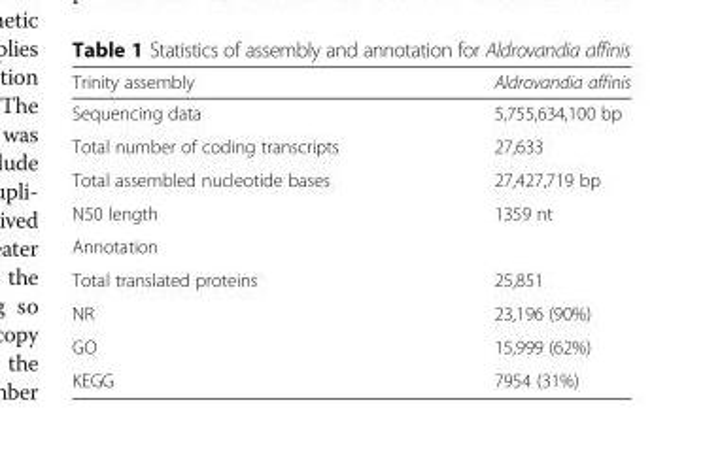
<table><thead><tr><td>Trinity assembly</td><td>Aldrovandia affinis</td></tr></thead><tbody><tr><td>Sequencing data</td><td>5,755,634,100 bp</td></tr><tr><td>Total number of coding transcripts</td><td>27,633</td></tr><tr><td>Total assembled nucleotide bases</td><td>27,427,719 bp</td></tr><tr><td>N50 length</td><td>1359 nt</td></tr><tr><td colspan="2">Annotation</td></tr><tr><td>Total translated proteins</td><td>25,851</td></tr><tr><td>NR</td><td>23,196 (90%)</td></tr><tr><td>GO</td><td>15,999 (62%)</td></tr><tr><td>KEGG</td><td>7954 (31%)</td></tr></tbody></table>